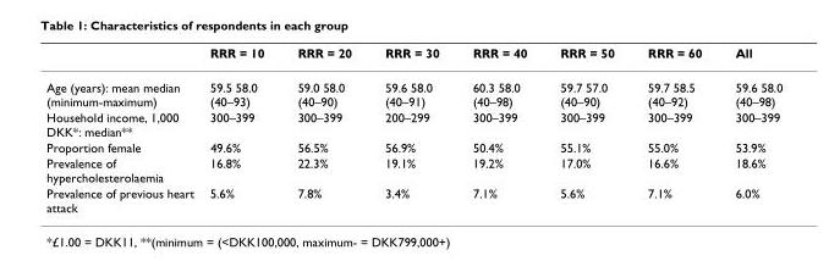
<table><thead><tr><td></td><td>RRR = 10</td><td>RRR = 20</td><td>RRR = 30</td><td>RRR = 40</td><td>RRR = 50</td><td>RRR = 60</td><td>All</td></tr></thead><tbody><tr><td>Age (years): mean median (minimum-maximum)</td><td>59.5 58.0 (40–93)</td><td>59.0 58.0 (40–90)</td><td>59.6 58.0 (40–91)</td><td>60.3 58.0 (40–98)</td><td>59.7 57.0 (40–90)</td><td>59.7 58.5 (40–92)</td><td>59.6 58.0 (40–98)</td></tr><tr><td>Household income, 1,000 DKK*: median**</td><td>300–399</td><td>300–399</td><td>200–299</td><td>300–399</td><td>300–399</td><td>300–399</td><td>300–399</td></tr><tr><td>Proportion female</td><td>49.6%</td><td>56.5%</td><td>56.9%</td><td>50.4%</td><td>55.1%</td><td>55.0%</td><td>53.9%</td></tr><tr><td>Prevalence of hypercholesterolaemia</td><td>16.8%</td><td>22.3%</td><td>19.1%</td><td>19.2%</td><td>17.0%</td><td>16.6%</td><td>18.6%</td></tr><tr><td>Prevalence of previous heart attack</td><td>5.6%</td><td>7.8%</td><td>3.4%</td><td>7.1%</td><td>5.6%</td><td>7.1%</td><td>6.0%</td></tr></tbody></table>